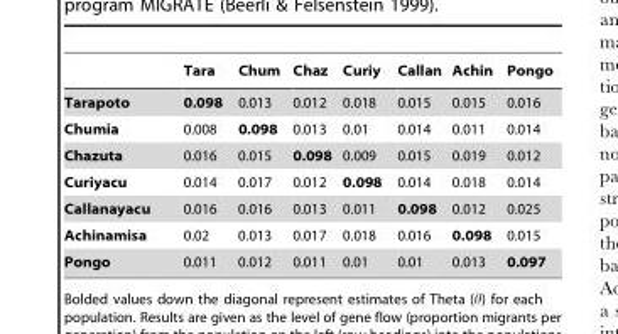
<table><thead><tr><td></td><td>Tara</td><td>Chum</td><td>Chaz</td><td>Curiy</td><td>Callan</td><td>Achin</td><td>Pongo</td></tr></thead><tbody><tr><td>Tarapoto</td><td>0.098</td><td>0.013</td><td>0.012</td><td>0.018</td><td>0.015</td><td>0.015</td><td>0.016</td></tr><tr><td>Chumia</td><td>0.008</td><td>0.098</td><td>0.013</td><td>0.01</td><td>0.014</td><td>0.011</td><td>0.014</td></tr><tr><td>Chazuta</td><td>0.016</td><td>0.015</td><td>0.098</td><td>0.009</td><td>0.015</td><td>0.019</td><td>0.012</td></tr><tr><td>Curiyacu</td><td>0.014</td><td>0.017</td><td>0.012</td><td>0.098</td><td>0.014</td><td>0.018</td><td>0.014</td></tr><tr><td>Callanayacu</td><td>0.016</td><td>0.016</td><td>0.013</td><td>0.011</td><td>0.098</td><td>0.012</td><td>0.025</td></tr><tr><td>Achinamisa</td><td>0.02</td><td>0.013</td><td>0.017</td><td>0.018</td><td>0.016</td><td>0.098</td><td>0.015</td></tr><tr><td>Pongo</td><td>0.011</td><td>0.012</td><td>0.011</td><td>0.01</td><td>0.01</td><td>0.013</td><td>0.097</td></tr></tbody></table>